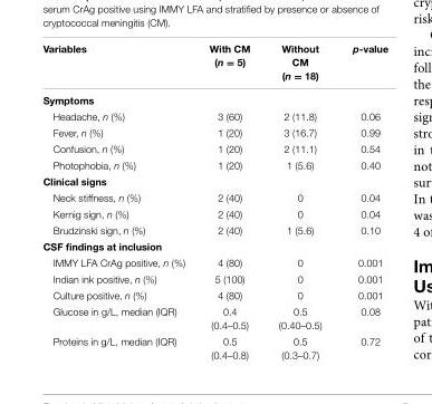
<table><thead><tr><td>Variables</td><td>With CM (n = 5)</td><td>Without CM (n = 18)</td><td>p-value</td></tr></thead><tbody><tr><td colspan="4">Symptoms</td></tr><tr><td>Headache, n (%)</td><td>3 (60)</td><td>2 (11.8)</td><td>0.06</td></tr><tr><td>Fever, n (%)</td><td>1 (20)</td><td>3 (16.7)</td><td>0.99</td></tr><tr><td>Confusion, n (%)</td><td>1 (20)</td><td>2 (11.1)</td><td>0.54</td></tr><tr><td>Photophobia, n (%)</td><td>1 (20)</td><td>1 (5.6)</td><td>0.40</td></tr><tr><td colspan="4">Clinical signs</td></tr><tr><td>Neck stiffness, n (%)</td><td>2 (40)</td><td>0</td><td>0.04</td></tr><tr><td>Kernig sign, n (%)</td><td>2 (40)</td><td>0</td><td>0.04</td></tr><tr><td>Brudzinski sign, n (%)</td><td>2 (40)</td><td>1 (5.6)</td><td>0.10</td></tr><tr><td colspan="4">CSF findings at inclusion</td></tr><tr><td>IMMY LFA CrAg positive, n (%)</td><td>4 (80)</td><td>0</td><td>0.001</td></tr><tr><td>Indian ink positive, n (%)</td><td>5 (100)</td><td>0</td><td>0.001</td></tr><tr><td>Culture positive, n (%)</td><td>4 (80)</td><td>0</td><td>0.001</td></tr><tr><td rowspan="2">Glucose in g/L, median (IQR)</td><td>0.4</td><td>0.5</td><td>0.08</td></tr><tr><td>(0.4–0.5)</td><td>(0.40–0.5)</td><td></td></tr><tr><td rowspan="2">Proteins in g/L, median (IQR)</td><td>0.5</td><td>0.5</td><td>0.72</td></tr><tr><td>(0.4–0.8)</td><td>(0.3–0.7)</td><td></td></tr></tbody></table>